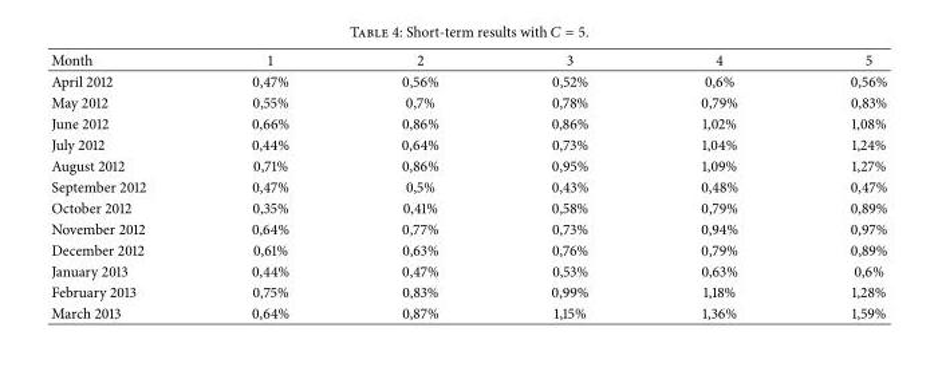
<table><thead><tr><td>Month</td><td>1</td><td>2</td><td>3</td><td>4</td><td>5</td></tr></thead><tbody><tr><td>April 2012</td><td>0,47%</td><td>0,56%</td><td>0,52%</td><td>0,6%</td><td>0,56%</td></tr><tr><td>May 2012</td><td>0,55%</td><td>0,7%</td><td>0,78%</td><td>0,79%</td><td>0,83%</td></tr><tr><td>June 2012</td><td>0,66%</td><td>0,86%</td><td>0,86%</td><td>1,02%</td><td>1,08%</td></tr><tr><td>July 2012</td><td>0,44%</td><td>0,64%</td><td>0,73%</td><td>1,04%</td><td>1,24%</td></tr><tr><td>August 2012</td><td>0,71%</td><td>0,86%</td><td>0,95%</td><td>1,09%</td><td>1,27%</td></tr><tr><td>September 2012</td><td>0,47%</td><td>0,5%</td><td>0,43%</td><td>0,48%</td><td>0,47%</td></tr><tr><td>October 2012</td><td>0,35%</td><td>0,41%</td><td>0,58%</td><td>0,79%</td><td>0,89%</td></tr><tr><td>November 2012</td><td>0,64%</td><td>0,77%</td><td>0,73%</td><td>0,94%</td><td>0,97%</td></tr><tr><td>December 2012</td><td>0,61%</td><td>0,63%</td><td>0,76%</td><td>0,79%</td><td>0,89%</td></tr><tr><td>January 2013</td><td>0,44%</td><td>0,47%</td><td>0,53%</td><td>0,63%</td><td>0,6%</td></tr><tr><td>February 2013</td><td>0,75%</td><td>0,83%</td><td>0,99%</td><td>1,18%</td><td>1,28%</td></tr><tr><td>March 2013</td><td>0,64%</td><td>0,87%</td><td>1,15%</td><td>1,36%</td><td>1,59%</td></tr></tbody></table>